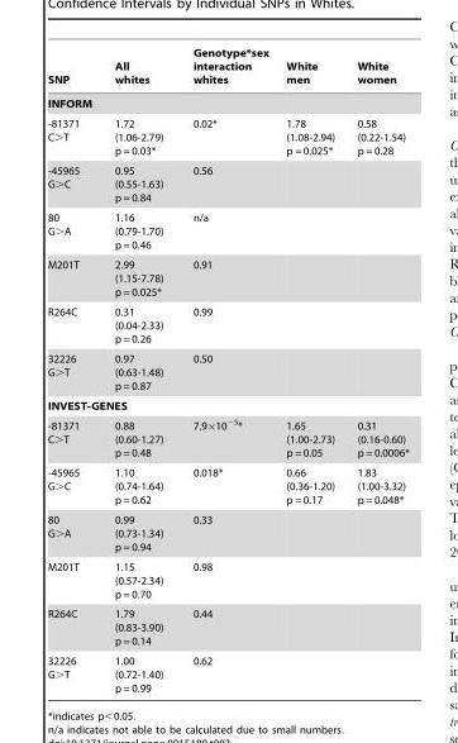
<table><thead><tr><td>SNP</td><td>All whites</td><td>Genotype*sex interaction whites</td><td>White men</td><td>White women</td></tr></thead><tbody><tr><td colspan="5">INFORM</td></tr><tr><td>-81371 C&gt;T</td><td>1.72 (1.06-2.79) p = 0.03*</td><td>0.02*</td><td>1.78 (1.08-2.94) p = 0.025*</td><td>0.58 (0.22-1.54) p = 0.28</td></tr><tr><td>-45965 G&gt;C</td><td>0.95 (0.55-1.63) p = 0.84</td><td>0.56</td><td></td><td></td></tr><tr><td>80 G&gt;A</td><td>1.16 (0.79-1.70) p = 0.46</td><td>n/a</td><td></td><td></td></tr><tr><td>M201T</td><td>2.99 (1.15-7.78) p = 0.025*</td><td>0.91</td><td></td><td></td></tr><tr><td>R264C</td><td>0.31 (0.04-2.33) p = 0.26</td><td>0.99</td><td></td><td></td></tr><tr><td>32226 G&gt;T</td><td>0.97 (0.63-1.48) p = 0.87</td><td>0.50</td><td></td><td></td></tr><tr><td colspan="5">INVEST-GENES</td></tr><tr><td>-81371 C&gt;T</td><td>0.88 (0.60-1.27) p = 0.48</td><td>7.9×10<sup>−5</sup>*</td><td>1.65 (1.00-2.73) p = 0.05</td><td>0.31 (0.16-0.60) p = 0.0006*</td></tr><tr><td>-45965 G&gt;C</td><td>1.10 (0.74-1.64) p = 0.62</td><td>0.018*</td><td>0.66 (0.36-1.20) p = 0.17</td><td>1.83 (1.00-3.32) p = 0.048*</td></tr><tr><td>80 G&gt;A</td><td>0.99 (0.73-1.34) p = 0.94</td><td>0.33</td><td></td><td></td></tr><tr><td>M201T</td><td>1.15 (0.57-2.34) p = 0.70</td><td>0.98</td><td></td><td></td></tr><tr><td>R264C</td><td>1.79 (0.83-3.90) p = 0.14</td><td>0.44</td><td></td><td></td></tr><tr><td>32226 G&gt;T</td><td>1.00 (0.72-1.40) p = 0.99</td><td>0.62</td><td></td><td></td></tr></tbody></table>